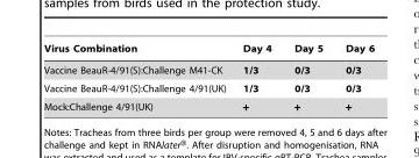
<table><thead><tr><td>Virus Combination</td><td>Day 4</td><td>Day 5</td><td>Day 6</td></tr></thead><tbody><tr><td>Vaccine BeauR-4/91(S):Challenge M41-CK</td><td>1/3</td><td>0/3</td><td>0/3</td></tr><tr><td>Vaccine BeauR-4/91(S):Challenge 4/91(UK)</td><td>1/3</td><td>0/3</td><td>0/3</td></tr><tr><td>Mock:Challenge 4/91(UK)</td><td>+</td><td>+</td><td>+</td></tr></tbody></table>